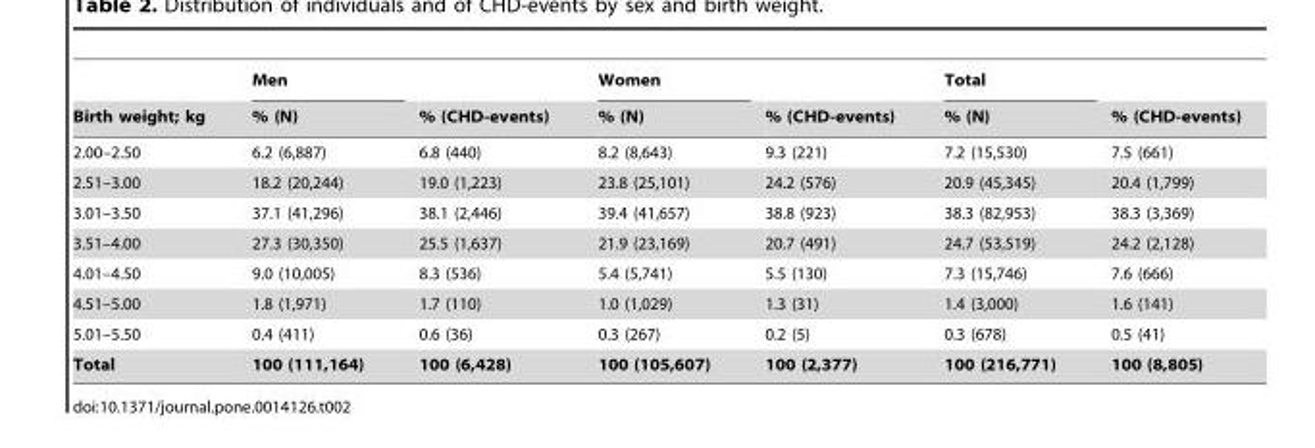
<table><thead><tr><td rowspan="2">Birth weight; kg</td><td rowspan="2">Men % (N)</td><td rowspan="2">% (CHD-events)</td><td rowspan="2">Women % (N)</td><td rowspan="2">% (CHD-events)</td><td rowspan="2">Total % (N)</td><td rowspan="2">% (CHD-events)</td></tr><tr></tr></thead><tbody><tr><td>2.00–2.50</td><td>6.2 (6,887)</td><td>6.8 (440)</td><td>8.2 (8,643)</td><td>9.3 (221)</td><td>7.2 (15,530)</td><td>7.5 (661)</td></tr><tr><td>2.51–3.00</td><td>18.2 (20,244)</td><td>19.0 (1,223)</td><td>23.8 (25,101)</td><td>24.2 (576)</td><td>20.9 (45,345)</td><td>20.4 (1,799)</td></tr><tr><td>3.01–3.50</td><td>37.1 (41,296)</td><td>38.1 (2,446)</td><td>39.4 (41,657)</td><td>38.8 (923)</td><td>38.3 (82,953)</td><td>38.3 (3,369)</td></tr><tr><td>3.51–4.00</td><td>27.3 (30,350)</td><td>25.5 (1,637)</td><td>21.9 (23,169)</td><td>20.7 (491)</td><td>24.7 (53,519)</td><td>24.2 (2,128)</td></tr><tr><td>4.01–4.50</td><td>9.0 (10,005)</td><td>8.3 (536)</td><td>5.4 (5,741)</td><td>5.5 (130)</td><td>7.3 (15,746)</td><td>7.6 (666)</td></tr><tr><td>4.51–5.00</td><td>1.8 (1,971)</td><td>1.7 (110)</td><td>1.0 (1,029)</td><td>1.3 (31)</td><td>1.4 (3,000)</td><td>1.6 (141)</td></tr><tr><td>5.01–5.50</td><td>0.4 (411)</td><td>0.6 (36)</td><td>0.3 (267)</td><td>0.2 (5)</td><td>0.3 (678)</td><td>0.5 (41)</td></tr><tr><td>Total</td><td>100 (111,164)</td><td>100 (6,428)</td><td>100 (105,607)</td><td>100 (2,377)</td><td>100 (216,771)</td><td>100 (8,805)</td></tr></tbody></table>